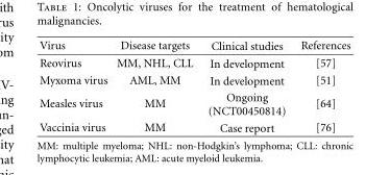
<table><thead><tr><td>Virus</td><td>Disease targets</td><td>Clinical studies</td><td>References</td></tr></thead><tbody><tr><td>Reovirus</td><td>MM, NHL, CLL</td><td>In development</td><td>[57]</td></tr><tr><td>Myxoma virus</td><td>AML, MM</td><td>In development</td><td>[51]</td></tr><tr><td>Measles virus</td><td>MM</td><td>Ongoing (NCT00450814)</td><td>[64]</td></tr><tr><td>Vaccinia virus</td><td>MM</td><td>Case report</td><td>[76]</td></tr></tbody></table>